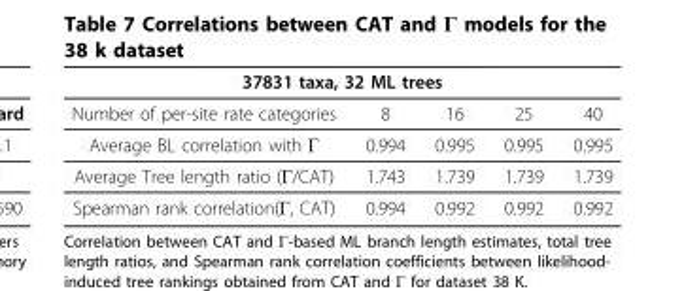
<table><thead><tr><td colspan="5">37831 taxa, 32 ML trees</td></tr><tr><td>Number of per-site rate categories</td><td>8</td><td>16</td><td>25</td><td>40</td></tr></thead><tbody><tr><td>Average BL correlation with Γ</td><td>0.994</td><td>0.995</td><td>0.995</td><td>0.995</td></tr><tr><td>Average Tree length ratio (Γ/CAT)</td><td>1.743</td><td>1.739</td><td>1.739</td><td>1.739</td></tr><tr><td>Spearman rank correlation(Γ, CAT)</td><td>0.994</td><td>0.992</td><td>0.992</td><td>0.992</td></tr></tbody></table>